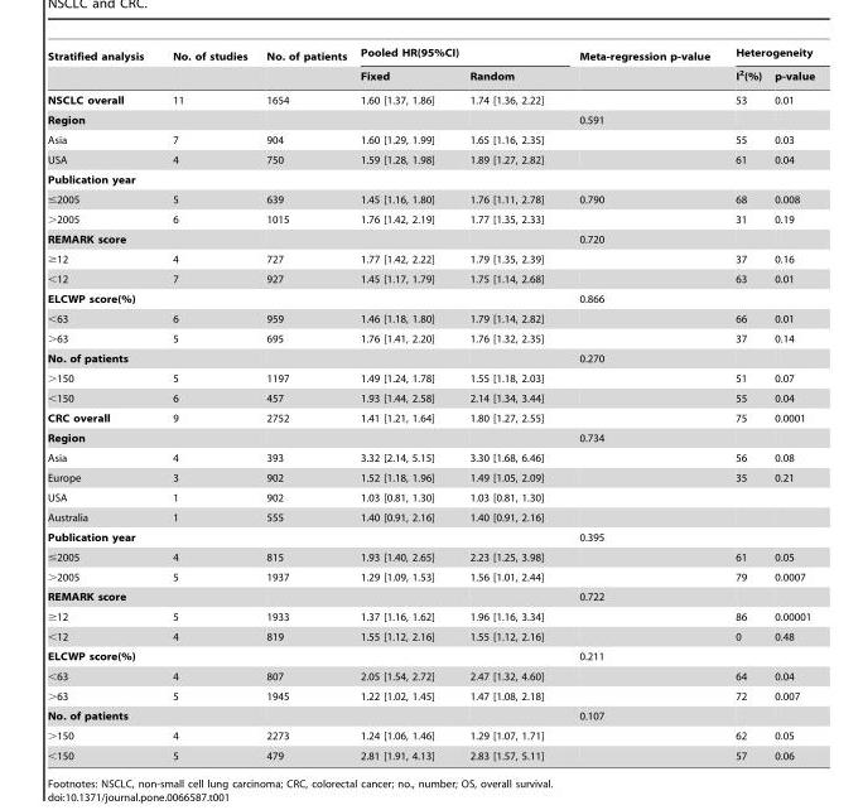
<table><thead><tr><td rowspan="2">Stratified analysis</td><td rowspan="2">No. of studies</td><td rowspan="2">No. of patients</td><td colspan="2">Pooled HR(95%CI)</td><td rowspan="2">Meta-regression p-value</td><td colspan="2">Heterogeneity</td></tr><tr><td>Fixed</td><td>Random</td><td>I<sup>2</sup>(%)</td><td>p-value</td></tr></thead><tbody><tr><td>NSCLC overall</td><td>11</td><td>1654</td><td>1.60 [1.37, 1.86]</td><td>1.74 [1.36, 2.22]</td><td></td><td>53</td><td>0.01</td></tr><tr><td colspan="2">Region</td><td></td><td></td><td></td><td>0.591</td><td></td><td></td></tr><tr><td>Asia</td><td>7</td><td>904</td><td>1.60 [1.29, 1.99]</td><td>1.65 [1.16, 2.35]</td><td></td><td>55</td><td>0.03</td></tr><tr><td>USA</td><td>4</td><td>750</td><td>1.59 [1.28, 1.98]</td><td>1.89 [1.27, 2.82]</td><td></td><td>61</td><td>0.04</td></tr><tr><td colspan="8">Publication year</td></tr><tr><td>≤2005</td><td>5</td><td>639</td><td>1.45 [1.16, 1.80]</td><td>1.76 [1.11, 2.78]</td><td>0.790</td><td>68</td><td>0.008</td></tr><tr><td>&gt;2005</td><td>6</td><td>1015</td><td>1.76 [1.42, 2.19]</td><td>1.77 [1.35, 2.33]</td><td></td><td>31</td><td>0.19</td></tr><tr><td colspan="2">REMARK score</td><td></td><td></td><td></td><td>0.720</td><td></td><td></td></tr><tr><td>≥12</td><td>4</td><td>727</td><td>1.77 [1.42, 2.22]</td><td>1.79 [1.35, 2.39]</td><td></td><td>37</td><td>0.16</td></tr><tr><td>&lt;12</td><td>7</td><td>927</td><td>1.45 [1.17, 1.79]</td><td>1.75 [1.14, 2.68]</td><td></td><td>63</td><td>0.01</td></tr><tr><td colspan="2">ELCWP score(%)</td><td></td><td></td><td></td><td>0.866</td><td></td><td></td></tr><tr><td>&lt;63</td><td>6</td><td>959</td><td>1.46 [1.18, 1.80]</td><td>1.79 [1.14, 2.82]</td><td></td><td>66</td><td>0.01</td></tr><tr><td>&gt;63</td><td>5</td><td>695</td><td>1.76 [1.41, 2.20]</td><td>1.76 [1.32, 2.35]</td><td></td><td>37</td><td>0.14</td></tr><tr><td colspan="2">No. of patients</td><td></td><td></td><td></td><td>0.270</td><td></td><td></td></tr><tr><td>&gt;150</td><td>5</td><td>1197</td><td>1.49 [1.24, 1.78]</td><td>1.55 [1.18, 2.03]</td><td></td><td>51</td><td>0.07</td></tr><tr><td>&lt;150</td><td>6</td><td>457</td><td>1.93 [1.44, 2.58]</td><td>2.14 [1.34, 3.44]</td><td></td><td>55</td><td>0.04</td></tr><tr><td>CRC overall</td><td>9</td><td>2752</td><td>1.41 [1.21, 1.64]</td><td>1.80 [1.27, 2.55]</td><td></td><td>75</td><td>0.0001</td></tr><tr><td colspan="2">Region</td><td></td><td></td><td></td><td>0.734</td><td></td><td></td></tr><tr><td>Asia</td><td>4</td><td>393</td><td>3.32 [2.14, 5.15]</td><td>3.30 [1.68, 6.46]</td><td></td><td>56</td><td>0.08</td></tr><tr><td>Europe</td><td>3</td><td>902</td><td>1.52 [1.18, 1.96]</td><td>1.49 [1.05, 2.09]</td><td></td><td>35</td><td>0.21</td></tr><tr><td>USA</td><td>1</td><td>902</td><td>1.03 [0.81, 1.30]</td><td>1.03 [0.81, 1.30]</td><td></td><td></td><td></td></tr><tr><td>Australia</td><td>1</td><td>555</td><td>1.40 [0.91, 2.16]</td><td>1.40 [0.91, 2.16]</td><td></td><td></td><td></td></tr><tr><td colspan="2">Publication year</td><td></td><td></td><td></td><td>0.395</td><td></td><td></td></tr><tr><td>≤2005</td><td>4</td><td>815</td><td>1.93 [1.40, 2.65]</td><td>2.23 [1.25, 3.98]</td><td></td><td>61</td><td>0.05</td></tr><tr><td>&gt;2005</td><td>5</td><td>1937</td><td>1.29 [1.09, 1.53]</td><td>1.56 [1.01, 2.44]</td><td></td><td>79</td><td>0.0007</td></tr><tr><td colspan="2">REMARK score</td><td></td><td></td><td></td><td>0.722</td><td></td><td></td></tr><tr><td>≥12</td><td>5</td><td>1933</td><td>1.37 [1.16, 1.62]</td><td>1.96 [1.16, 3.34]</td><td></td><td>86</td><td>0.00001</td></tr><tr><td>&lt;12</td><td>4</td><td>819</td><td>1.55 [1.12, 2.16]</td><td>1.55 [1.12, 2.16]</td><td></td><td>0</td><td>0.48</td></tr><tr><td colspan="2">ELCWP score(%)</td><td></td><td></td><td></td><td>0.211</td><td></td><td></td></tr><tr><td>&lt;63</td><td>4</td><td>807</td><td>2.05 [1.54, 2.72]</td><td>2.47 [1.32, 4.60]</td><td></td><td>64</td><td>0.04</td></tr><tr><td>&gt;63</td><td>5</td><td>1945</td><td>1.22 [1.02, 1.45]</td><td>1.47 [1.08, 2.18]</td><td></td><td>72</td><td>0.007</td></tr><tr><td colspan="2">No. of patients</td><td></td><td></td><td></td><td>0.107</td><td></td><td></td></tr><tr><td>&gt;150</td><td>4</td><td>2273</td><td>1.24 [1.06, 1.46]</td><td>1.29 [1.07, 1.71]</td><td></td><td>62</td><td>0.05</td></tr><tr><td>&lt;150</td><td>5</td><td>479</td><td>2.81 [1.91, 4.13]</td><td>2.83 [1.57, 5.11]</td><td></td><td>57</td><td>0.06</td></tr></tbody></table>